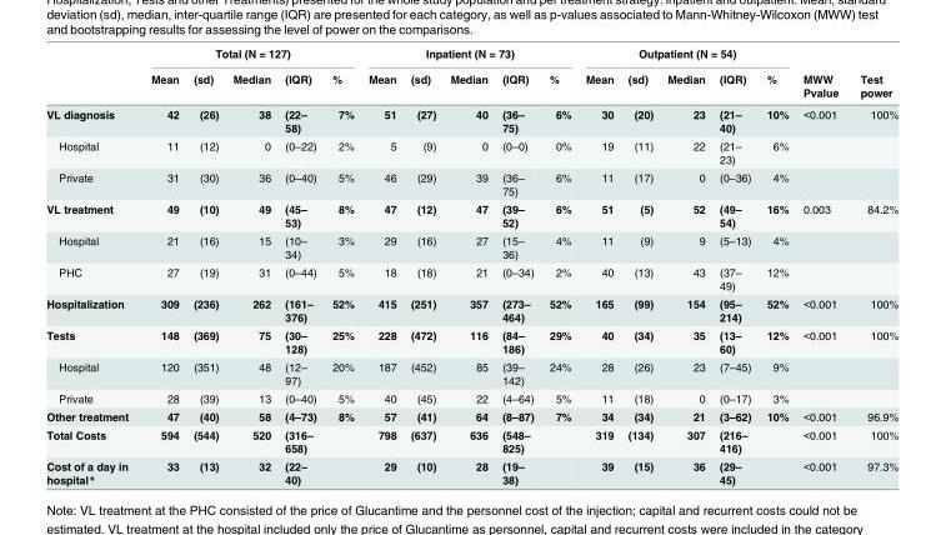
<table><thead><tr><td rowspan="2"></td><td colspan="5">Total (N = 127)</td><td colspan="5">Inpatient (N = 73)</td><td colspan="5">Outpatient (N = 54)</td><td rowspan="2">MWW Pvalue</td><td rowspan="2">Test power</td></tr><tr><td>Mean</td><td>(sd)</td><td>Median</td><td>(IQR)</td><td>%</td><td>Mean</td><td>(sd)</td><td>Median</td><td>(IQR)</td><td>%</td><td>Mean</td><td>(sd)</td><td>Median</td><td>(IQR)</td><td>%</td></tr></thead><tbody><tr><td>VL diagnosis</td><td>42</td><td>(26)</td><td>38</td><td>(22– 58)</td><td>7%</td><td>51</td><td>(27)</td><td>40</td><td>(36– 75)</td><td>6%</td><td>30</td><td>(20)</td><td>23</td><td>(21– 40)</td><td>10%</td><td>&lt;0.001</td><td>100%</td></tr><tr><td>Hospital</td><td>11</td><td>(12)</td><td>0</td><td>(0–22)</td><td>2%</td><td>5</td><td>(9)</td><td>0</td><td>(0–0)</td><td>0%</td><td>19</td><td>(11)</td><td>22</td><td>(21– 23)</td><td>6%</td><td></td><td></td></tr><tr><td>Private</td><td>31</td><td>(30)</td><td>36</td><td>(0–40)</td><td>5%</td><td>46</td><td>(29)</td><td>39</td><td>(36– 75)</td><td>6%</td><td>11</td><td>(17)</td><td>0</td><td>(0–36)</td><td>4%</td><td></td><td></td></tr><tr><td>VL treatment</td><td>49</td><td>(10)</td><td>49</td><td>(45– 53)</td><td>8%</td><td>47</td><td>(12)</td><td>47</td><td>(39– 52)</td><td>6%</td><td>51</td><td>(5)</td><td>52</td><td>(49– 54)</td><td>16%</td><td>0.003</td><td>84.2%</td></tr><tr><td>Hospital</td><td>21</td><td>(16)</td><td>15</td><td>(10– 34)</td><td>3%</td><td>29</td><td>(16)</td><td>27</td><td>(15– 36)</td><td>4%</td><td>11</td><td>(9)</td><td>9</td><td>(5–13)</td><td>4%</td><td></td><td></td></tr><tr><td>PHC</td><td>27</td><td>(19)</td><td>31</td><td>(0–44)</td><td>5%</td><td>18</td><td>(18)</td><td>21</td><td>(0–34)</td><td>2%</td><td>40</td><td>(13)</td><td>43</td><td>(37– 49)</td><td>12%</td><td></td><td></td></tr><tr><td>Hospitalization</td><td>309</td><td>(236)</td><td>262</td><td>(161– 376)</td><td>52%</td><td>415</td><td>(251)</td><td>357</td><td>(273– 464)</td><td>52%</td><td>165</td><td>(99)</td><td>154</td><td>(95– 214)</td><td>52%</td><td>&lt;0.001</td><td>100%</td></tr><tr><td>Tests</td><td>148</td><td>(369)</td><td>75</td><td>(30– 128)</td><td>25%</td><td>228</td><td>(472)</td><td>116</td><td>(84– 186)</td><td>29%</td><td>40</td><td>(34)</td><td>35</td><td>(13– 60)</td><td>12%</td><td>&lt;0.001</td><td>100%</td></tr><tr><td>Hospital</td><td>120</td><td>(351)</td><td>48</td><td>(12– 97)</td><td>20%</td><td>187</td><td>(452)</td><td>85</td><td>(39– 142)</td><td>24%</td><td>28</td><td>(26)</td><td>23</td><td>(7–45)</td><td>9%</td><td></td><td></td></tr><tr><td>Private</td><td>28</td><td>(39)</td><td>13</td><td>(0–40)</td><td>5%</td><td>40</td><td>(45)</td><td>22</td><td>(4–64)</td><td>5%</td><td>11</td><td>(18)</td><td>0</td><td>(0–17)</td><td>3%</td><td></td><td></td></tr><tr><td>Other treatment</td><td>47</td><td>(40)</td><td>58</td><td>(4–73)</td><td>8%</td><td>57</td><td>(41)</td><td>64</td><td>(8–87)</td><td>7%</td><td>34</td><td>(34)</td><td>21</td><td>(3–62)</td><td>10%</td><td>&lt;0.001</td><td>96.9%</td></tr><tr><td>Total Costs</td><td>594</td><td>(544)</td><td>520</td><td>(316– 658)</td><td></td><td>798</td><td>(637)</td><td>636</td><td>(548– 825)</td><td></td><td>319</td><td>(134)</td><td>307</td><td>(216– 416)</td><td></td><td>&lt;0.001</td><td>100%</td></tr><tr><td>Cost of a day in hospital*</td><td>33</td><td>(13)</td><td>32</td><td>(22– 40)</td><td></td><td>29</td><td>(10)</td><td>28</td><td>(19– 38)</td><td></td><td>39</td><td>(15)</td><td>36</td><td>(29– 45)</td><td></td><td>&lt;0.001</td><td>97.3%</td></tr></tbody></table>